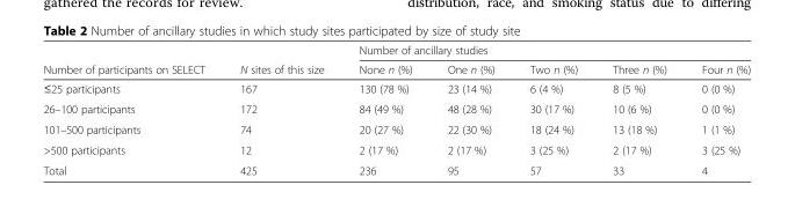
<table><thead><tr><td rowspan="2">Number of participants on SELECT</td><td rowspan="2">N sites of this size</td><td colspan="5">Number of ancillary studies</td></tr><tr><td>None n (%)</td><td>One n (%)</td><td>Two n (%)</td><td>Three n (%)</td><td>Four n (%)</td></tr></thead><tbody><tr><td>≤25 participants</td><td>167</td><td>130 (78 %)</td><td>23 (14 %)</td><td>6 (4 %)</td><td>8 (5 %)</td><td>0 (0 %)</td></tr><tr><td>26–100 participants</td><td>172</td><td>84 (49 %)</td><td>48 (28 %)</td><td>30 (17 %)</td><td>10 (6 %)</td><td>0 (0 %)</td></tr><tr><td>101–500 participants</td><td>74</td><td>20 (27 %)</td><td>22 (30 %)</td><td>18 (24 %)</td><td>13 (18 %)</td><td>1 (1 %)</td></tr><tr><td>&gt;500 participants</td><td>12</td><td>2 (17 %)</td><td>2 (17 %)</td><td>3 (25 %)</td><td>2 (17 %)</td><td>3 (25 %)</td></tr><tr><td>Total</td><td>425</td><td>236</td><td>95</td><td>57</td><td>33</td><td>4</td></tr></tbody></table>